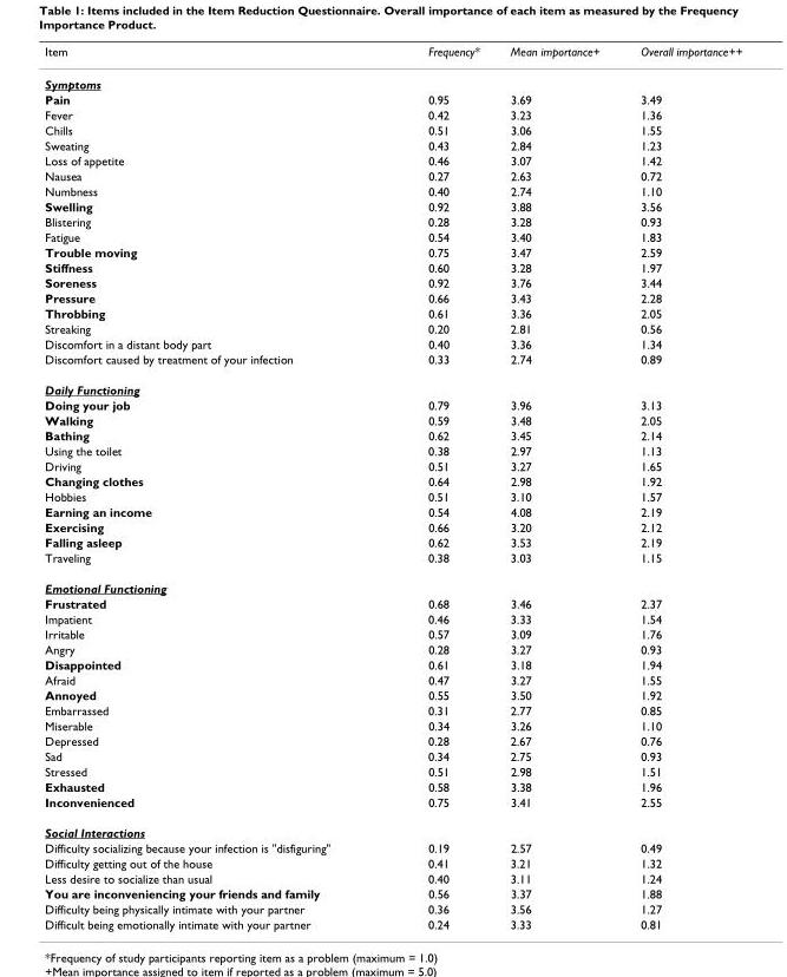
<table><thead><tr><td>Item</td><td>Frequency*</td><td>Mean importance+</td><td>Overall importance++</td></tr></thead><tbody><tr><td colspan="4">Symptoms</td></tr><tr><td>Pain</td><td>0.95</td><td>3.69</td><td>3.49</td></tr><tr><td>Fever</td><td>0.42</td><td>3.23</td><td>1.36</td></tr><tr><td>Chills</td><td>0.51</td><td>3.06</td><td>1.55</td></tr><tr><td>Sweating</td><td>0.43</td><td>2.84</td><td>1.23</td></tr><tr><td>Loss of appetite</td><td>0.46</td><td>3.07</td><td>1.42</td></tr><tr><td>Nausea</td><td>0.27</td><td>2.63</td><td>0.72</td></tr><tr><td>Numbness</td><td>0.40</td><td>2.74</td><td>1.10</td></tr><tr><td>Swelling</td><td>0.92</td><td>3.88</td><td>3.56</td></tr><tr><td>Blistering</td><td>0.28</td><td>3.28</td><td>0.93</td></tr><tr><td>Fatigue</td><td>0.54</td><td>3.40</td><td>1.83</td></tr><tr><td>Trouble moving</td><td>0.75</td><td>3.47</td><td>2.59</td></tr><tr><td>Stiffness</td><td>0.60</td><td>3.28</td><td>1.97</td></tr><tr><td>Soreness</td><td>0.92</td><td>3.76</td><td>3.44</td></tr><tr><td>Pressure</td><td>0.66</td><td>3.43</td><td>2.28</td></tr><tr><td>Throbbing</td><td>0.61</td><td>3.36</td><td>2.05</td></tr><tr><td>Streaking</td><td>0.20</td><td>2.81</td><td>0.56</td></tr><tr><td>Discomfort in a distant body part</td><td>0.40</td><td>3.36</td><td>1.34</td></tr><tr><td>Discomfort caused by treatment of your infection</td><td>0.33</td><td>2.74</td><td>0.89</td></tr><tr><td colspan="4">Daily Functioning</td></tr><tr><td>Doing your job</td><td>0.79</td><td>3.96</td><td>3.13</td></tr><tr><td>Walking</td><td>0.59</td><td>3.48</td><td>2.05</td></tr><tr><td>Bathing</td><td>0.62</td><td>3.45</td><td>2.14</td></tr><tr><td>Using the toilet</td><td>0.38</td><td>2.97</td><td>1.13</td></tr><tr><td>Driving</td><td>0.51</td><td>3.27</td><td>1.65</td></tr><tr><td>Changing clothes</td><td>0.64</td><td>2.98</td><td>1.92</td></tr><tr><td>Hobbies</td><td>0.51</td><td>3.10</td><td>1.57</td></tr><tr><td>Earning an income</td><td>0.54</td><td>4.08</td><td>2.19</td></tr><tr><td>Exercising</td><td>0.66</td><td>3.20</td><td>2.12</td></tr><tr><td>Falling asleep</td><td>0.62</td><td>3.53</td><td>2.19</td></tr><tr><td>Traveling</td><td>0.38</td><td>3.03</td><td>1.15</td></tr><tr><td colspan="4">Emotional Functioning</td></tr><tr><td>Frustrated</td><td>0.68</td><td>3.46</td><td>2.37</td></tr><tr><td>Impatient</td><td>0.46</td><td>3.33</td><td>1.54</td></tr><tr><td>Irritable</td><td>0.57</td><td>3.09</td><td>1.76</td></tr><tr><td>Angry</td><td>0.28</td><td>3.27</td><td>0.93</td></tr><tr><td>Disappointed</td><td>0.61</td><td>3.18</td><td>1.94</td></tr><tr><td>Afraid</td><td>0.47</td><td>3.27</td><td>1.55</td></tr><tr><td>Annoyed</td><td>0.55</td><td>3.50</td><td>1.92</td></tr><tr><td>Embarrassed</td><td>0.31</td><td>2.77</td><td>0.85</td></tr><tr><td>Miserable</td><td>0.34</td><td>3.26</td><td>1.10</td></tr><tr><td>Depressed</td><td>0.28</td><td>2.67</td><td>0.76</td></tr><tr><td>Sad</td><td>0.34</td><td>2.75</td><td>0.93</td></tr><tr><td>Stressed</td><td>0.51</td><td>2.98</td><td>1.51</td></tr><tr><td>Exhausted</td><td>0.58</td><td>3.38</td><td>1.96</td></tr><tr><td>Inconvenienced</td><td>0.75</td><td>3.41</td><td>2.55</td></tr><tr><td colspan="4">Social Interactions</td></tr><tr><td>Difficulty socializing because your infection is &quot;disfiguring&quot;</td><td>0.19</td><td>2.57</td><td>0.49</td></tr><tr><td>Difficulty getting out of the house</td><td>0.41</td><td>3.21</td><td>1.32</td></tr><tr><td>Less desire to socialize than usual</td><td>0.40</td><td>3.11</td><td>1.24</td></tr><tr><td>You are inconveniencing your friends and family</td><td>0.56</td><td>3.37</td><td>1.88</td></tr><tr><td>Difficulty being physically intimate with your partner</td><td>0.36</td><td>3.56</td><td>1.27</td></tr><tr><td>Difficult being emotionally intimate with your partner</td><td>0.24</td><td>3.33</td><td>0.81</td></tr></tbody></table>